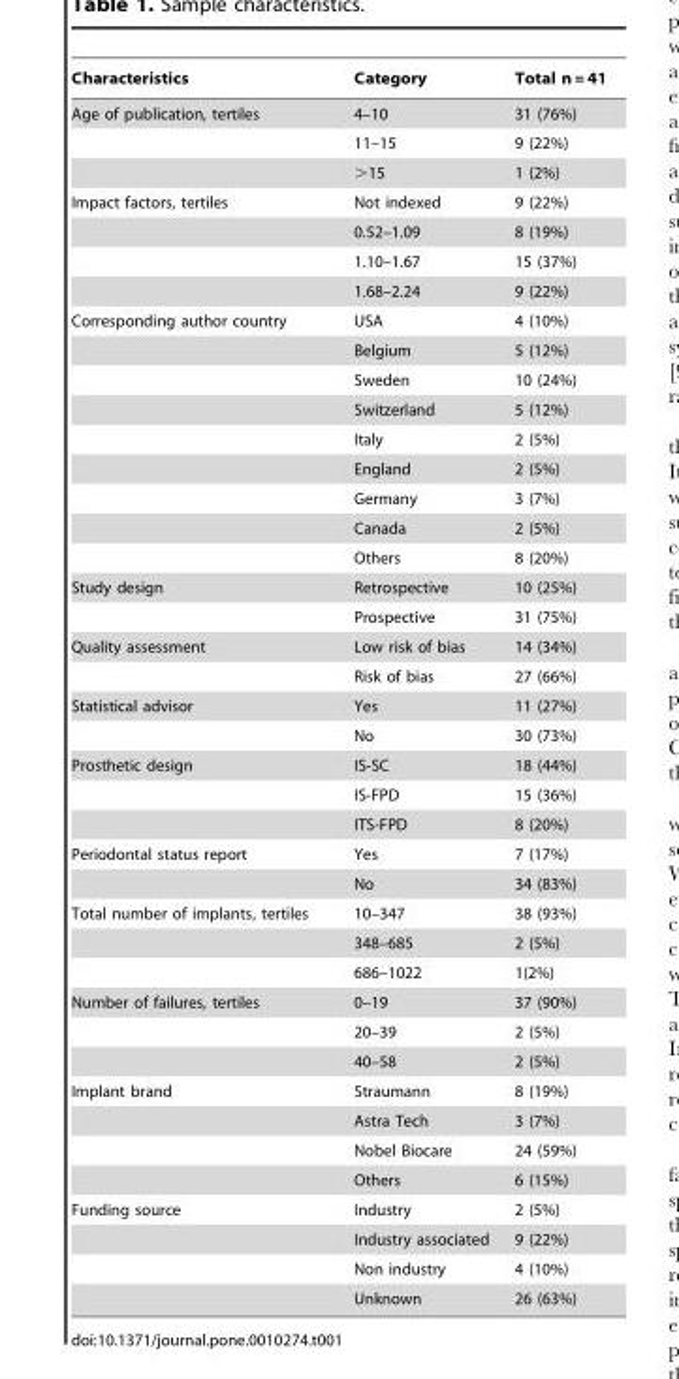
<table><thead><tr><td>Characteristics</td><td>Category</td><td>Total n = 41</td></tr></thead><tbody><tr><td rowspan="3">Age of publication, tertiles</td><td>4–10</td><td>31 (76%)</td></tr><tr><td>11–15</td><td>9 (22%)</td></tr><tr><td>&gt;15</td><td>1 (2%)</td></tr><tr><td rowspan="4">Impact factors, tertiles</td><td>Not indexed</td><td>9 (22%)</td></tr><tr><td>0.52–1.09</td><td>8 (19%)</td></tr><tr><td>1.10–1.67</td><td>15 (37%)</td></tr><tr><td>1.68–2.24</td><td>9 (22%)</td></tr><tr><td rowspan="9">Corresponding author country</td><td>USA</td><td>4 (10%)</td></tr><tr><td>Belgium</td><td>5 (12%)</td></tr><tr><td>Sweden</td><td>10 (24%)</td></tr><tr><td>Switzerland</td><td>5 (12%)</td></tr><tr><td>Italy</td><td>2 (5%)</td></tr><tr><td>England</td><td>2 (5%)</td></tr><tr><td>Germany</td><td>3 (7%)</td></tr><tr><td>Canada</td><td>2 (5%)</td></tr><tr><td>Others</td><td>8 (20%)</td></tr><tr><td rowspan="2">Study design</td><td>Retrospective</td><td>10 (25%)</td></tr><tr><td>Prospective</td><td>31 (75%)</td></tr><tr><td rowspan="2">Quality assessment</td><td>Low risk of bias</td><td>14 (34%)</td></tr><tr><td>Risk of bias</td><td>27 (66%)</td></tr><tr><td rowspan="2">Statistical advisor</td><td>Yes</td><td>11 (27%)</td></tr><tr><td>No</td><td>30 (73%)</td></tr><tr><td rowspan="3">Prosthetic design</td><td>IS-SC</td><td>18 (44%)</td></tr><tr><td>IS-FPD</td><td>15 (36%)</td></tr><tr><td>ITS-FPD</td><td>8 (20%)</td></tr><tr><td rowspan="2">Periodontal status report</td><td>Yes</td><td>7 (17%)</td></tr><tr><td>No</td><td>34 (83%)</td></tr><tr><td rowspan="3">Total number of implants, tertiles</td><td>10–347</td><td>38 (93%)</td></tr><tr><td>348–685</td><td>2 (5%)</td></tr><tr><td>686–1022</td><td>1(2%)</td></tr><tr><td rowspan="3">Number of failures, tertiles</td><td>0–19</td><td>37 (90%)</td></tr><tr><td>20–39</td><td>2 (5%)</td></tr><tr><td>40–58</td><td>2 (5%)</td></tr><tr><td rowspan="4">Implant brand</td><td>Straumann</td><td>8 (19%)</td></tr><tr><td>Astra Tech</td><td>3 (7%)</td></tr><tr><td>Nobel Biocare</td><td>24 (59%)</td></tr><tr><td>Others</td><td>6 (15%)</td></tr><tr><td rowspan="4">Funding source</td><td>Industry</td><td>2 (5%)</td></tr><tr><td>Industry associated</td><td>9 (22%)</td></tr><tr><td>Non industry</td><td>4 (10%)</td></tr><tr><td>Unknown</td><td>26 (63%)</td></tr></tbody></table>